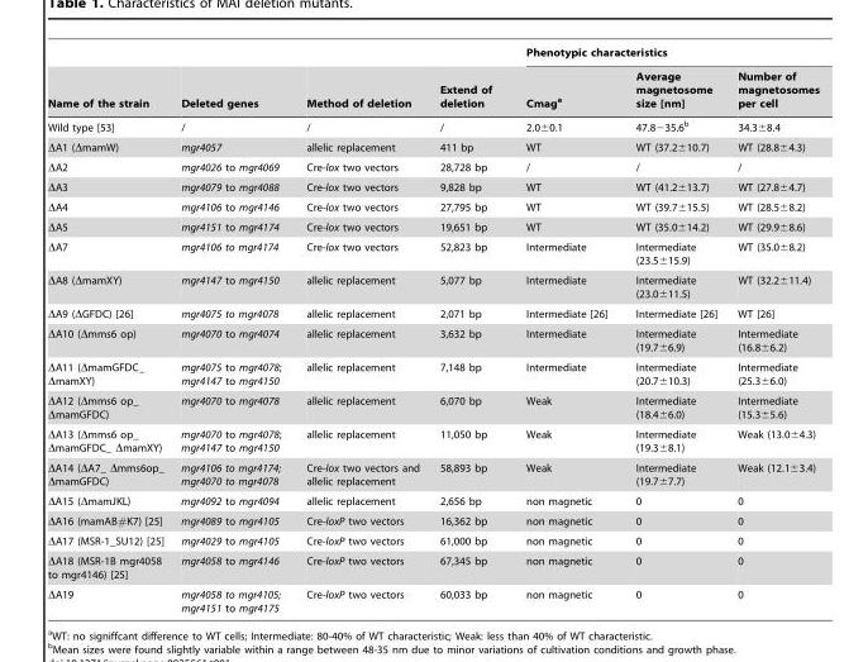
<table><thead><tr><td rowspan="2">Name of the strain</td><td rowspan="2">Deleted genes</td><td rowspan="2">Method of deletion</td><td rowspan="2">Extend of deletion</td><td colspan="3">Phenotypic characteristics</td></tr><tr><td>Cmag<sup>a</sup></td><td>Average magnetosome size [nm]</td><td>Number of magnetosomes per cell</td></tr></thead><tbody><tr><td>Wild type [53]</td><td>/</td><td>/</td><td>/</td><td>2.0±0.1</td><td>47.8−35.6<sup>b</sup></td><td>34.3±8.4</td></tr><tr><td>ΔA1 (ΔmamW)</td><td>mgr4057</td><td>allelic replacement</td><td>411 bp</td><td>WT</td><td>WT (37.2±10.7)</td><td>WT (28.8±4.3)</td></tr><tr><td>ΔA2</td><td>mgr4026 to mgr4069</td><td>Cre-lox two vectors</td><td>28,728 bp</td><td>/</td><td>/</td><td>/</td></tr><tr><td>ΔA3</td><td>mgr4079 to mgr4088</td><td>Cre-lox two vectors</td><td>9,828 bp</td><td>WT</td><td>WT (41.2±13.7)</td><td>WT (27.8±4.7)</td></tr><tr><td>ΔA4</td><td>mgr4106 to mgr4146</td><td>Cre-lox two vectors</td><td>27,795 bp</td><td>WT</td><td>WT (39.7±15.5)</td><td>WT (28.5±8.2)</td></tr><tr><td>ΔA5</td><td>mgr4151 to mgr4174</td><td>Cre-lox two vectors</td><td>19,651 bp</td><td>WT</td><td>WT (35.0±14.2)</td><td>WT (29.9±8.6)</td></tr><tr><td>ΔA7</td><td>mgr4106 to mgr4174</td><td>Cre-lox two vectors</td><td>52,823 bp</td><td>Intermediate</td><td>Intermediate (23.5±15.9)</td><td>WT (35.0±8.2)</td></tr><tr><td>ΔA8 (ΔmamXY)</td><td>mgr4147 to mgr4150</td><td>allelic replacement</td><td>5,077 bp</td><td>Intermediate</td><td>Intermediate (23.0±11.5)</td><td>WT (32.2±11.4)</td></tr><tr><td>ΔA9 (ΔGFDC) [26]</td><td>mgr4075 to mgr4078</td><td>allelic replacement</td><td>2,071 bp</td><td>Intermediate [26]</td><td>Intermediate [26]</td><td>WT [26]</td></tr><tr><td>ΔA10 (Δmms6 op)</td><td>mgr4070 to mgr4074</td><td>allelic replacement</td><td>3,632 bp</td><td>Intermediate</td><td>Intermediate (19.7±6.9)</td><td>Intermediate (16.8±6.2)</td></tr><tr><td>ΔA11 (ΔmamGFDC_ ΔmamXY)</td><td>mgr4075 to mgr4078; mgr4147 to mgr4150</td><td>allelic replacement</td><td>7,148 bp</td><td>Intermediate</td><td>Intermediate (20.7±10.3)</td><td>Intermediate (25.3±6.0)</td></tr><tr><td>ΔA12 (Δmms6 op_ ΔmamGFDC)</td><td>mgr4070 to mgr4078</td><td>allelic replacement</td><td>6,070 bp</td><td>Weak</td><td>Intermediate (18.4±6.0)</td><td>Intermediate (15.3±5.6)</td></tr><tr><td>ΔA13 (Δmms6 op_ ΔmamGFDC_ ΔmamXY)</td><td>mgr4070 to mgr4078; mgr4147 to mgr4150</td><td>allelic replacement</td><td>11,050 bp</td><td>Weak</td><td>Intermediate (19.3±8.1)</td><td>Weak (13.0±4.3)</td></tr><tr><td>ΔA14 (ΔA7_ Δmms6op_ ΔmamGFDC)</td><td>mgr4106 to mgr4174; mgr4070 to mgr4078</td><td>Cre-lox two vectors and allelic replacement</td><td>58,893 bp</td><td>Weak</td><td>Intermediate (19.7±7.7)</td><td>Weak (12.1±3.4)</td></tr><tr><td>ΔA15 (ΔmamJKL)</td><td>mgr4092 to mgr4094</td><td>allelic replacement</td><td>2,656 bp</td><td>non magnetic</td><td>0</td><td>0</td></tr><tr><td>ΔA16 (mamAB#K7) [25]</td><td>mgr4089 to mgr4105</td><td>Cre-loxP two vectors</td><td>16,362 bp</td><td>non magnetic</td><td>0</td><td>0</td></tr><tr><td>ΔA17 (MSR-1_SU12) [25]</td><td>mgr4029 to mgr4105</td><td>Cre-loxP two vectors</td><td>61,000 bp</td><td>non magnetic</td><td>0</td><td>0</td></tr><tr><td>ΔA18 (MSR-1B mgr4058 to mgr4146) [25]</td><td>mgr4058 to mgr4146</td><td>Cre-loxP two vectors</td><td>67,345 bp</td><td>non magnetic</td><td>0</td><td>0</td></tr><tr><td>ΔA19</td><td>mgr4058 to mgr4105; mgr4151 to mgr4175</td><td>Cre-loxP two vectors</td><td>60,033 bp</td><td>non magnetic</td><td>0</td><td>0</td></tr></tbody></table>